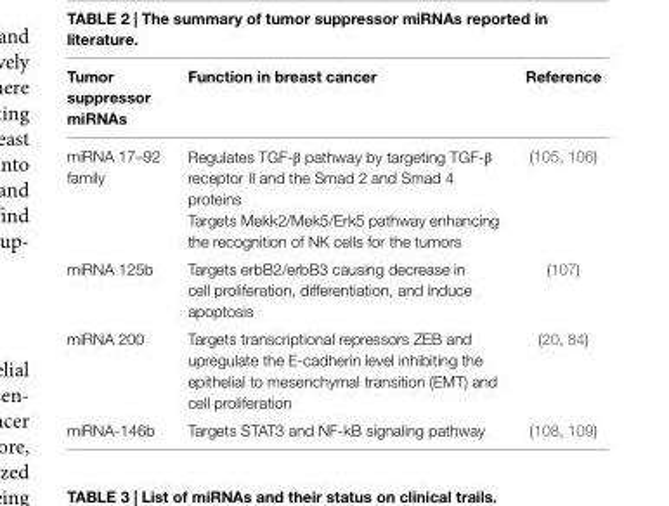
<table><thead><tr><td>Tumor suppressor miRNAs</td><td>Function in breast cancer</td><td>Reference</td></tr></thead><tbody><tr><td>miRNA 17–92 family</td><td>Regulates TGF-β pathway by targeting TGF-β receptor II and the Smad 2 and Smad 4 proteins Targets Mekk2/Mek5/Erk5 pathway enhancing the recognition of NK cells for the tumors</td><td>(105, 106)</td></tr><tr><td>miRNA 125b</td><td>Targets erbB2/erbB3 causing decrease in cell proliferation, differentiation, and induce apoptosis</td><td>(107)</td></tr><tr><td>miRNA 200</td><td>Targets transcriptional repressors ZEB and upregulate the E-cadherin level inhibiting the epithelial to mesenchymal transition (EMT) and cell proliferation</td><td>(20, 84)</td></tr><tr><td>miRNA-146b</td><td>Targets STAT3 and NF-kB signaling pathway</td><td>(108, 109)</td></tr></tbody></table>